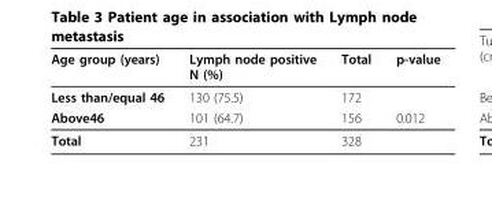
<table><thead><tr><td>Age group (years)</td><td>Lymph node positive N (%)</td><td>Total</td><td>p-value</td></tr></thead><tbody><tr><td>Less than/equal 46</td><td>130 (75.5)</td><td>172</td><td></td></tr><tr><td>Above46</td><td>101 (64.7)</td><td>156</td><td>0.012</td></tr><tr><td>Total</td><td>231</td><td>328</td><td></td></tr></tbody></table>